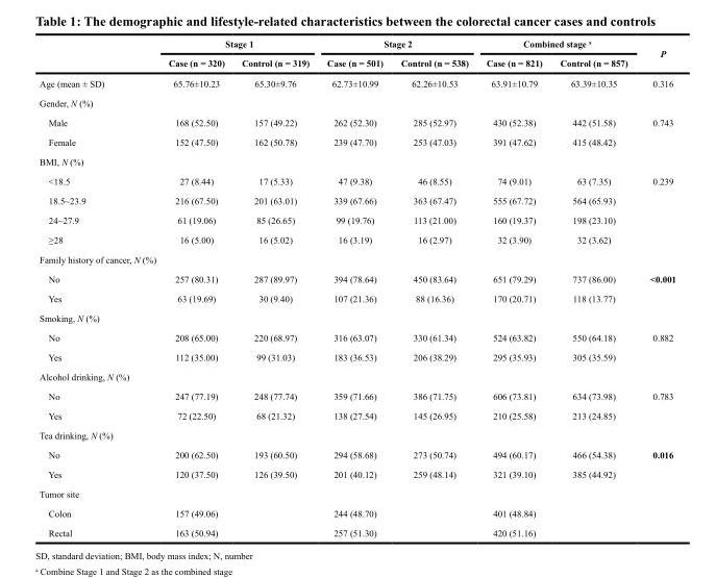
<table><thead><tr><td rowspan="2"></td><td colspan="2">Stage 1</td><td colspan="2">Stage 2</td><td colspan="2">Combined stage <sup>a</sup></td><td rowspan="2">P</td></tr><tr><td>Case (n = 320)</td><td>Control (n = 319)</td><td>Case (n = 501)</td><td>Control (n = 538)</td><td>Case (n = 821)</td><td>Control (n = 857)</td></tr></thead><tbody><tr><td>Age (mean ± SD)</td><td>65.76±10.23</td><td>65.30±9.76</td><td>62.73±10.99</td><td>62.26±10.53</td><td>63.91±10.79</td><td>63.39±10.35</td><td>0.316</td></tr><tr><td colspan="8">Gender, N (%)</td></tr><tr><td>Male</td><td>168 (52.50)</td><td>157 (49.22)</td><td>262 (52.30)</td><td>285 (52.97)</td><td>430 (52.38)</td><td>442 (51.58)</td><td>0.743</td></tr><tr><td>Female</td><td>152 (47.50)</td><td>162 (50.78)</td><td>239 (47.70)</td><td>253 (47.03)</td><td>391 (47.62)</td><td>415 (48.42)</td><td></td></tr><tr><td colspan="8">BMI, N (%)</td></tr><tr><td>&lt;18.5</td><td>27 (8.44)</td><td>17 (5.33)</td><td>47 (9.38)</td><td>46 (8.55)</td><td>74 (9.01)</td><td>63 (7.35)</td><td>0.239</td></tr><tr><td>18.5~23.9</td><td>216 (67.50)</td><td>201 (63.01)</td><td>339 (67.66)</td><td>363 (67.47)</td><td>555 (67.72)</td><td>564 (65.93)</td><td></td></tr><tr><td>24~27.9</td><td>61 (19.06)</td><td>85 (26.65)</td><td>99 (19.76)</td><td>113 (21.00)</td><td>160 (19.37)</td><td>198 (23.10)</td><td></td></tr><tr><td>≥28</td><td>16 (5.00)</td><td>16 (5.02)</td><td>16 (3.19)</td><td>16 (2.97)</td><td>32 (3.90)</td><td>32 (3.62)</td><td></td></tr><tr><td colspan="8">Family history of cancer, N (%)</td></tr><tr><td>No</td><td>257 (80.31)</td><td>287 (89.97)</td><td>394 (78.64)</td><td>450 (83.64)</td><td>651 (79.29)</td><td>737 (86.00)</td><td>&lt;0.001</td></tr><tr><td>Yes</td><td>63 (19.69)</td><td>30 (9.40)</td><td>107 (21.36)</td><td>88 (16.36)</td><td>170 (20.71)</td><td>118 (13.77)</td><td></td></tr><tr><td colspan="8">Smoking, N (%)</td></tr><tr><td>No</td><td>208 (65.00)</td><td>220 (68.97)</td><td>316 (63.07)</td><td>330 (61.34)</td><td>524 (63.82)</td><td>550 (64.18)</td><td>0.882</td></tr><tr><td>Yes</td><td>112 (35.00)</td><td>99 (31.03)</td><td>183 (36.53)</td><td>206 (38.29)</td><td>295 (35.93)</td><td>305 (35.59)</td><td></td></tr><tr><td colspan="8">Alcohol drinking, N (%)</td></tr><tr><td>No</td><td>247 (77.19)</td><td>248 (77.74)</td><td>359 (71.66)</td><td>386 (71.75)</td><td>606 (73.81)</td><td>634 (73.98)</td><td>0.783</td></tr><tr><td>Yes</td><td>72 (22.50)</td><td>68 (21.32)</td><td>138 (27.54)</td><td>145 (26.95)</td><td>210 (25.58)</td><td>213 (24.85)</td><td></td></tr><tr><td colspan="8">Tea drinking, N (%)</td></tr><tr><td>No</td><td>200 (62.50)</td><td>193 (60.50)</td><td>294 (58.68)</td><td>273 (50.74)</td><td>494 (60.17)</td><td>466 (54.38)</td><td>0.016</td></tr><tr><td>Yes</td><td>120 (37.50)</td><td>126 (39.50)</td><td>201 (40.12)</td><td>259 (48.14)</td><td>321 (39.10)</td><td>385 (44.92)</td><td></td></tr><tr><td colspan="8">Tumor site</td></tr><tr><td>Colon</td><td>157 (49.06)</td><td></td><td>244 (48.70)</td><td></td><td>401 (48.84)</td><td></td><td></td></tr><tr><td>Rectal</td><td>163 (50.94)</td><td></td><td>257 (51.30)</td><td></td><td>420 (51.16)</td><td></td><td></td></tr></tbody></table>